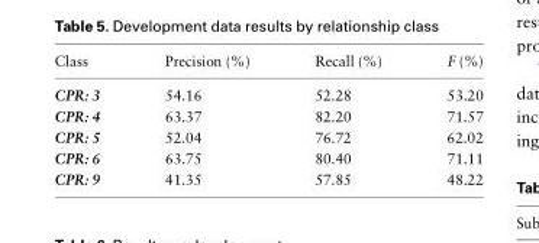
<table><thead><tr><td>Class</td><td>Precision (%)</td><td>Recall (%)</td><td>F (%)</td></tr></thead><tbody><tr><td>CPR: 3</td><td>54.16</td><td>52.28</td><td>53.20</td></tr><tr><td>CPR: 4</td><td>63.37</td><td>82.20</td><td>71.57</td></tr><tr><td>CPR: 5</td><td>52.04</td><td>76.72</td><td>62.02</td></tr><tr><td>CPR: 6</td><td>63.75</td><td>80.40</td><td>71.11</td></tr><tr><td>CPR: 9</td><td>41.35</td><td>57.85</td><td>48.22</td></tr></tbody></table>